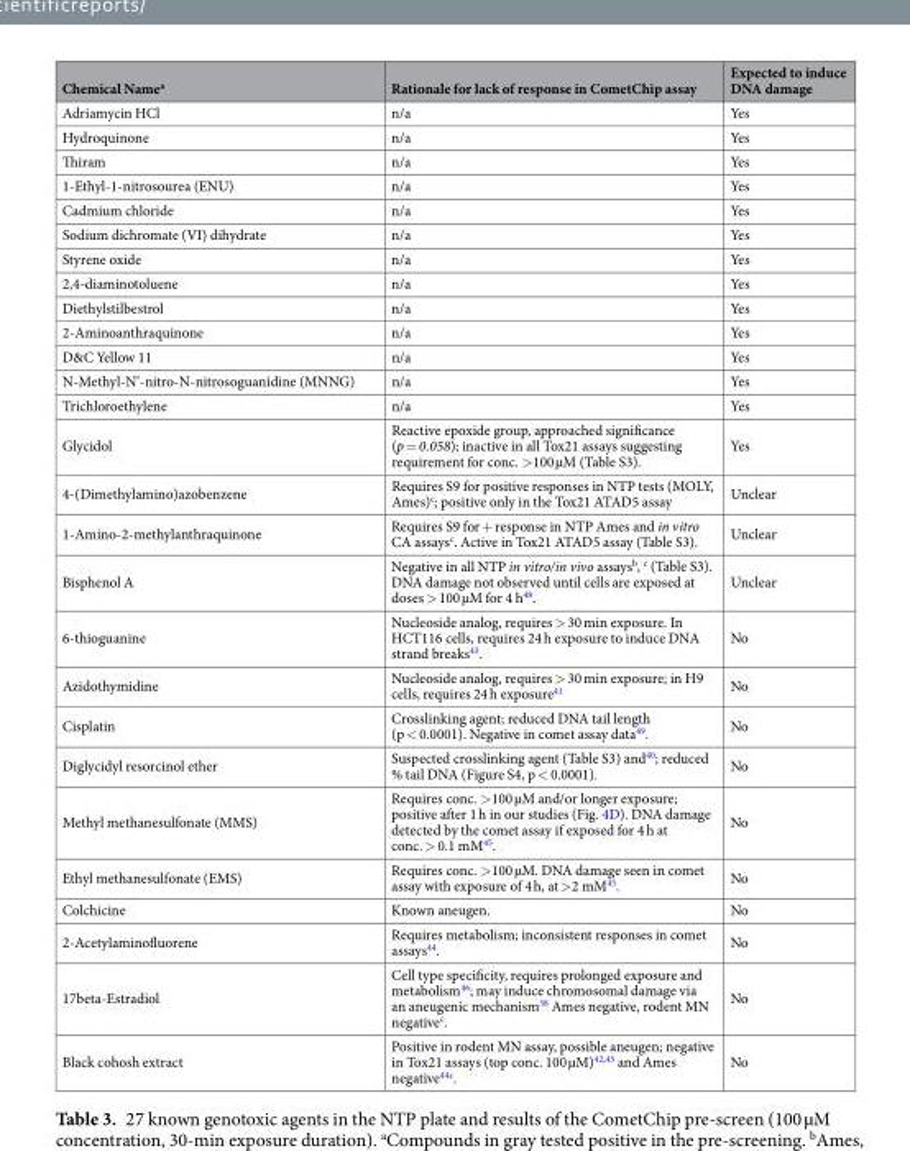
<table><thead><tr><td>Chemical Name<sup>a</sup></td><td>Rationale for lack of response in CometChip assay</td><td>Expected to induce DNA damage</td></tr></thead><tbody><tr><td>Adriamycin HCl</td><td>n/a</td><td>Yes</td></tr><tr><td>Hydroquinone</td><td>n/a</td><td>Yes</td></tr><tr><td>Thiram</td><td>n/a</td><td>Yes</td></tr><tr><td>1-Ethyl-1-nitrosourea (ENU)</td><td>n/a</td><td>Yes</td></tr><tr><td>Cadmium chloride</td><td>n/a</td><td>Yes</td></tr><tr><td>Sodium dichromate (VI) dihydrate</td><td>n/a</td><td>Yes</td></tr><tr><td>Styrene oxide</td><td>n/a</td><td>Yes</td></tr><tr><td>2,4-diaminotoluene</td><td>n/a</td><td>Yes</td></tr><tr><td>Diethylstilbestrol</td><td>n/a</td><td>Yes</td></tr><tr><td>2-Aminoanthraquinone</td><td>n/a</td><td>Yes</td></tr><tr><td>D&amp;C Yellow 11</td><td>n/a</td><td>Yes</td></tr><tr><td>N-Methyl-N’-nitro-N-nitrosoguanidine (MNNG)</td><td>n/a</td><td>Yes</td></tr><tr><td>Trichloroethylene</td><td>n/a</td><td>Yes</td></tr><tr><td>Glycidol</td><td>Reactive epoxide group, approached significance (p = 0.058); inactive in all Tox21 assays suggesting requirement for conc. &gt;100 µM (Table S3).</td><td>Yes</td></tr><tr><td>4-(Dimethylamino)azobenzene</td><td>Requires S9 for positive responses in NTP tests (MOLY, Ames)<sup>c</sup>; positive only in the Tox21 ATAD5 assay</td><td>Unclear</td></tr><tr><td>1-Amino-2-methylanthraquinone</td><td>Requires S9 for + response in NTP Ames and in vitro CA assays<sup>c</sup>. Active in Tox21 ATAD5 assay (Table S3).</td><td>Unclear</td></tr><tr><td>Bisphenol A</td><td>Negative in all NTP in vitro/in vivo assays<sup>b</sup>, <sup>c</sup> (Table S3). DNA damage not observed until cells are exposed at doses &gt; 100 µM for 4 h<sup>48</sup>.</td><td>Unclear</td></tr><tr><td>6-thioguanine</td><td>Nucleoside analog, requires &gt; 30 min exposure. In HCT116 cells, requires 24 h exposure to induce DNA strand breaks<sup>43</sup>.</td><td>No</td></tr><tr><td>Azidothymidine</td><td>Nucleoside analog, requires &gt; 30 min exposure; in H9 cells, requires 24 h exposure<sup>41</sup></td><td>No</td></tr><tr><td>Cisplatin</td><td>Crosslinking agent; reduced DNA tail length (p &lt; 0.0001). Negative in comet assay data<sup>49</sup>.</td><td>No</td></tr><tr><td>Diglycidyl resorcinol ether</td><td>Suspected crosslinking agent (Table S3) and<sup>40</sup>; reduced % tail DNA (Figure S4, p &lt; 0.0001).</td><td>No</td></tr><tr><td>Methyl methanesulfonate (MMS)</td><td>Requires conc. &gt;100 µM and/or longer exposure; positive after 1 h in our studies (Fig. 4D). DNA damage detected by the comet assay if exposed for 4 h at conc. &gt; 0.1 mM<sup>45</sup>.</td><td>No</td></tr><tr><td>Ethyl methanesulfonate (EMS)</td><td>Requires conc. &gt;100 µM. DNA damage seen in comet assay with exposure of 4 h, at &gt;2 mM<sup>45</sup>.</td><td>No</td></tr><tr><td>Colchicine</td><td>Known aneugen.</td><td>No</td></tr><tr><td>2-Acetylaminofluorene</td><td>Requires metabolism; inconsistent responses in comet assays<sup>44</sup>.</td><td>No</td></tr><tr><td>17beta-Estradiol</td><td>Cell type specificity, requires prolonged exposure and metabolism<sup>46</sup>; may induce chromosomal damage via an aneugenic mechanism<sup>38</sup> Ames negative, rodent MN negative<sup>c</sup>.</td><td>No</td></tr><tr><td>Black cohosh extract</td><td>Positive in rodent MN assay, possible aneugen; negative in Tox21 assays (top conc. 100 µM)<sup>42,43</sup> and Ames negative<sup>44c</sup>.</td><td>No</td></tr></tbody></table>